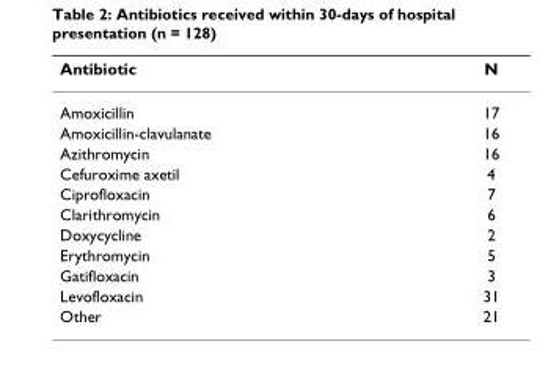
<table><thead><tr><td>Antibiotic</td><td>N</td></tr></thead><tbody><tr><td>Amoxicillin</td><td>17</td></tr><tr><td>Amoxicillin-clavulanate</td><td>16</td></tr><tr><td>Azithromycin</td><td>16</td></tr><tr><td>Cefuroxime axetil</td><td>4</td></tr><tr><td>Ciprofloxacin</td><td>7</td></tr><tr><td>Clarithromycin</td><td>6</td></tr><tr><td>Doxycycline</td><td>2</td></tr><tr><td>Erythromycin</td><td>5</td></tr><tr><td>Gatifloxacin</td><td>3</td></tr><tr><td>Levofloxacin</td><td>31</td></tr><tr><td>Other</td><td>21</td></tr></tbody></table>